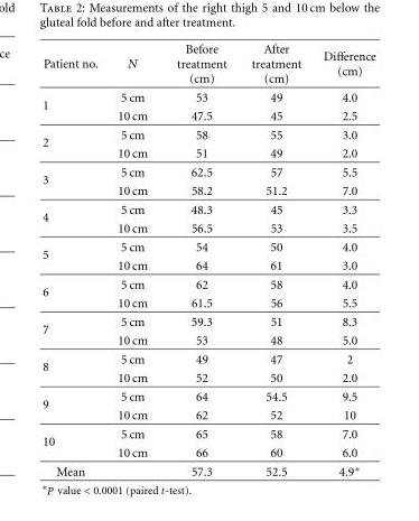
<table><thead><tr><td>Patient no.</td><td>N</td><td>Before treatment (cm)</td><td>After treatment (cm)</td><td>Difference (cm)</td></tr></thead><tbody><tr><td rowspan="2">1</td><td>5 cm</td><td>53</td><td>49</td><td>4.0</td></tr><tr><td>10 cm</td><td>47.5</td><td>45</td><td>2.5</td></tr><tr><td rowspan="2">2</td><td>5 cm</td><td>58</td><td>55</td><td>3.0</td></tr><tr><td>10 cm</td><td>51</td><td>49</td><td>2.0</td></tr><tr><td rowspan="2">3</td><td>5 cm</td><td>62.5</td><td>57</td><td>5.5</td></tr><tr><td>10 cm</td><td>58.2</td><td>51.2</td><td>7.0</td></tr><tr><td rowspan="2">4</td><td>5 cm</td><td>48.3</td><td>45</td><td>3.3</td></tr><tr><td>10 cm</td><td>56.5</td><td>53</td><td>3.5</td></tr><tr><td rowspan="2">5</td><td>5 cm</td><td>54</td><td>50</td><td>4.0</td></tr><tr><td>10 cm</td><td>64</td><td>61</td><td>3.0</td></tr><tr><td rowspan="2">6</td><td>5 cm</td><td>62</td><td>58</td><td>4.0</td></tr><tr><td>10 cm</td><td>61.5</td><td>56</td><td>5.5</td></tr><tr><td rowspan="2">7</td><td>5 cm</td><td>59.3</td><td>51</td><td>8.3</td></tr><tr><td>10 cm</td><td>53</td><td>48</td><td>5.0</td></tr><tr><td rowspan="2">8</td><td>5 cm</td><td>49</td><td>47</td><td>2</td></tr><tr><td>10 cm</td><td>52</td><td>50</td><td>2.0</td></tr><tr><td rowspan="2">9</td><td>5 cm</td><td>64</td><td>54.5</td><td>9.5</td></tr><tr><td>10 cm</td><td>62</td><td>52</td><td>10</td></tr><tr><td rowspan="2">10</td><td>5 cm</td><td>65</td><td>58</td><td>7.0</td></tr><tr><td>10 cm</td><td>66</td><td>60</td><td>6.0</td></tr><tr><td>Mean</td><td></td><td>57.3</td><td>52.5</td><td>4.9∗</td></tr></tbody></table>